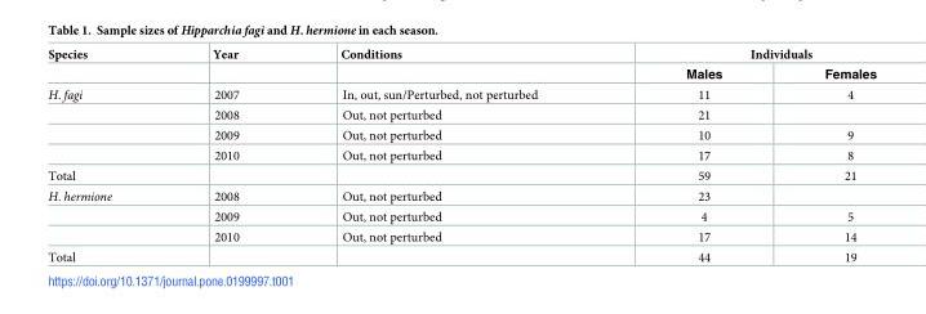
<table><thead><tr><td rowspan="2">Species</td><td rowspan="2">Year</td><td rowspan="2">Conditions</td><td colspan="2">Individuals</td></tr><tr><td>Males</td><td>Females</td></tr></thead><tbody><tr><td rowspan="4">H. fagi</td><td>2007</td><td>In, out, sun/Perturbed, not perturbed</td><td>11</td><td>4</td></tr><tr><td>2008</td><td>Out, not perturbed</td><td>21</td><td></td></tr><tr><td>2009</td><td>Out, not perturbed</td><td>10</td><td>9</td></tr><tr><td>2010</td><td>Out, not perturbed</td><td>17</td><td>8</td></tr><tr><td>Total</td><td></td><td></td><td>59</td><td>21</td></tr><tr><td rowspan="3">H. hermione</td><td>2008</td><td>Out, not perturbed</td><td>23</td><td></td></tr><tr><td>2009</td><td>Out, not perturbed</td><td>4</td><td>5</td></tr><tr><td>2010</td><td>Out, not perturbed</td><td>17</td><td>14</td></tr><tr><td>Total</td><td></td><td></td><td>44</td><td>19</td></tr></tbody></table>